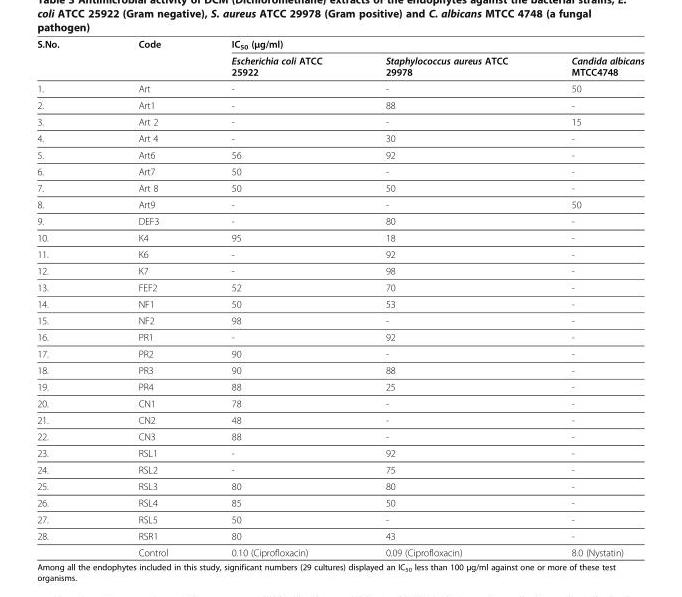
<table><thead><tr><td rowspan="2">S.No.</td><td rowspan="2">Code</td><td colspan="3">IC<sub>50</sub> (μg/ml)</td></tr><tr><td>Escherichia coli ATCC 25922</td><td>Staphylococcus aureus ATCC 29978</td><td>Candida albicans MTCC4748</td></tr></thead><tbody><tr><td>1.</td><td>Art</td><td>-</td><td>-</td><td>50</td></tr><tr><td>2.</td><td>Art1</td><td>-</td><td>88</td><td>-</td></tr><tr><td>3.</td><td>Art 2</td><td>-</td><td>-</td><td>15</td></tr><tr><td>4.</td><td>Art 4</td><td>-</td><td>30</td><td>-</td></tr><tr><td>5.</td><td>Art6</td><td>56</td><td>92</td><td>-</td></tr><tr><td>6.</td><td>Art7</td><td>50</td><td>-</td><td>-</td></tr><tr><td>7.</td><td>Art 8</td><td>50</td><td>50</td><td>-</td></tr><tr><td>8.</td><td>Art9</td><td>-</td><td>-</td><td>50</td></tr><tr><td>9.</td><td>DEF3</td><td>-</td><td>80</td><td>-</td></tr><tr><td>10.</td><td>K4</td><td>95</td><td>18</td><td>-</td></tr><tr><td>11.</td><td>K6</td><td>-</td><td>92</td><td>-</td></tr><tr><td>12.</td><td>K7</td><td>-</td><td>98</td><td>-</td></tr><tr><td>13.</td><td>FEF2</td><td>52</td><td>70</td><td>-</td></tr><tr><td>14.</td><td>NF1</td><td>50</td><td>53</td><td>-</td></tr><tr><td>15.</td><td>NF2</td><td>98</td><td>-</td><td>-</td></tr><tr><td>16.</td><td>PR1</td><td>-</td><td>92</td><td>-</td></tr><tr><td>17.</td><td>PR2</td><td>90</td><td>-</td><td>-</td></tr><tr><td>18.</td><td>PR3</td><td>90</td><td>88</td><td>-</td></tr><tr><td>19.</td><td>PR4</td><td>88</td><td>25</td><td>-</td></tr><tr><td>20.</td><td>CN1</td><td>78</td><td>-</td><td>-</td></tr><tr><td>21.</td><td>CN2</td><td>48</td><td>-</td><td>-</td></tr><tr><td>22.</td><td>CN3</td><td>88</td><td>-</td><td>-</td></tr><tr><td>23.</td><td>RSL1</td><td>-</td><td>92</td><td>-</td></tr><tr><td>24.</td><td>RSL2</td><td>-</td><td>75</td><td>-</td></tr><tr><td>25.</td><td>RSL3</td><td>80</td><td>80</td><td>-</td></tr><tr><td>26.</td><td>RSL4</td><td>85</td><td>50</td><td>-</td></tr><tr><td>27.</td><td>RSL5</td><td>50</td><td>-</td><td>-</td></tr><tr><td rowspan="2">28.</td><td>RSR1</td><td>80</td><td>43</td><td>-</td></tr><tr><td>Control</td><td>0.10 (Ciprofloxacin)</td><td>0.09 (Ciprofloxacin)</td><td>8.0 (Nystatin)</td></tr></tbody></table>